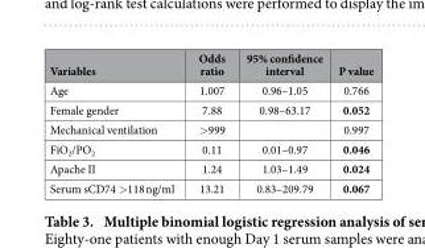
<table><thead><tr><td>Variables</td><td>Odds ratio</td><td>95% confidence interval</td><td>P value</td></tr></thead><tbody><tr><td>Age</td><td>1.007</td><td>0.96–1.05</td><td>0.766</td></tr><tr><td>Female gender</td><td>7.88</td><td>0.98–63.17</td><td>0.052</td></tr><tr><td>Mechanical ventilation</td><td>&gt; 999</td><td></td><td>0.997</td></tr><tr><td>FiO<sub>2</sub>/PO<sub>2</sub></td><td>0.11</td><td>0.01–0.97</td><td>0.046</td></tr><tr><td>Apache II</td><td>1.24</td><td>1.03–1.49</td><td>0.024</td></tr><tr><td>Serum sCD74 &gt; 118 ng/ml</td><td>13.21</td><td>0.83–209.79</td><td>0.067</td></tr></tbody></table>